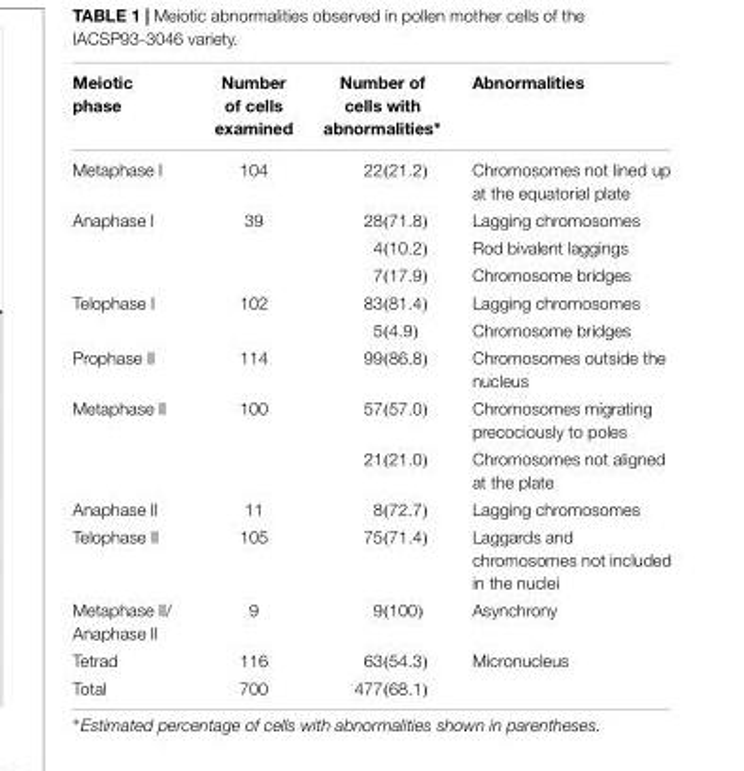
<table><thead><tr><td>Meiotic phase</td><td>Number of cells examined</td><td>Number of cells with abnormalities∗</td><td>Abnormalities</td></tr></thead><tbody><tr><td>Metaphase I</td><td>104</td><td>22(21.2)</td><td>Chromosomes not lined up at the equatorial plate</td></tr><tr><td rowspan="3">Anaphase I</td><td>39</td><td>28(71.8)</td><td>Lagging chromosomes</td></tr><tr><td></td><td>4(10.2)</td><td>Rod bivalent laggings</td></tr><tr><td></td><td>7(17.9)</td><td>Chromosome bridges</td></tr><tr><td rowspan="2">Telophase I</td><td>102</td><td>83(81.4)</td><td>Lagging chromosomes</td></tr><tr><td></td><td>5(4.9)</td><td>Chromosome bridges</td></tr><tr><td>Prophase II</td><td>114</td><td>99(86.8)</td><td>Chromosomes outside the nucleus</td></tr><tr><td rowspan="2">Metaphase II</td><td>100</td><td>57(57.0)</td><td>Chromosomes migrating precociously to poles</td></tr><tr><td></td><td>21(21.0)</td><td>Chromosomes not aligned at the plate</td></tr><tr><td>Anaphase II</td><td>11</td><td>8(72.7)</td><td>Lagging chromosomes</td></tr><tr><td>Telophase II</td><td>105</td><td>75(71.4)</td><td>Laggards and chromosomes not included in the nuclei</td></tr><tr><td>Metaphase II/ Anaphase II</td><td>9</td><td>9(100)</td><td>Asynchrony</td></tr><tr><td>Tetrad</td><td>116</td><td>63(54.3)</td><td>Micronucleus</td></tr><tr><td>Total</td><td>700</td><td>477(68.1)</td><td></td></tr></tbody></table>